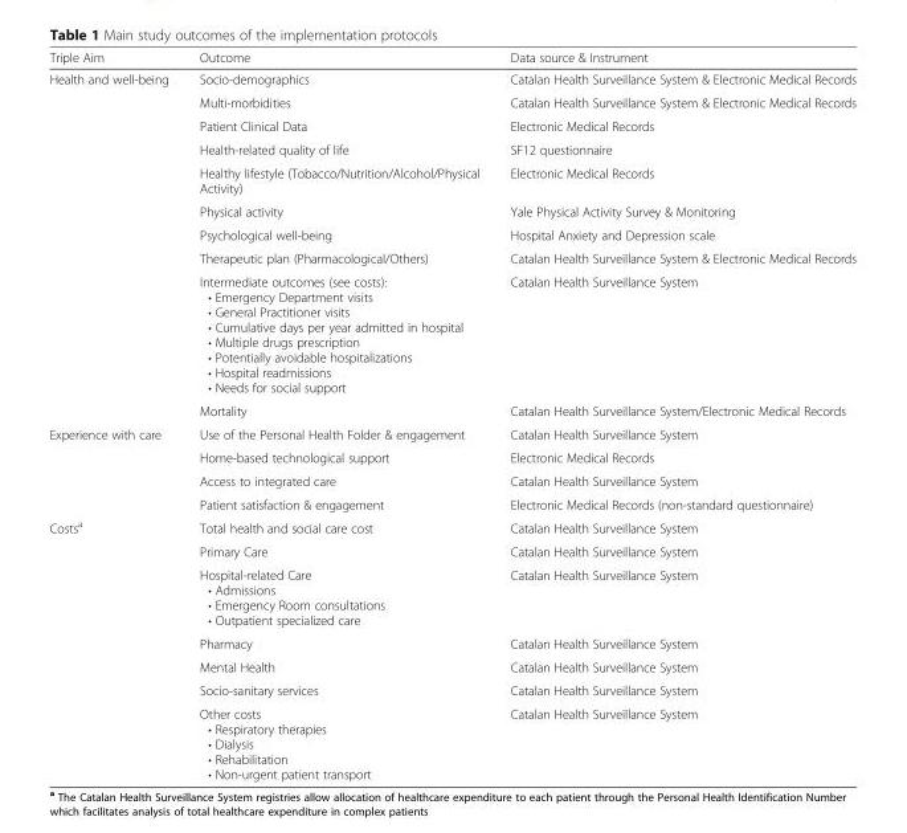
<table><thead><tr><td>Triple Aim</td><td>Outcome</td><td>Data source &amp; Instrument</td></tr></thead><tbody><tr><td rowspan="10">Health and well-being</td><td>Socio-demographics</td><td>Catalan Health Surveillance System &amp; Electronic Medical Records</td></tr><tr><td>Multi-morbidities</td><td>Catalan Health Surveillance System &amp; Electronic Medical Records</td></tr><tr><td>Patient Clinical Data</td><td>Electronic Medical Records</td></tr><tr><td>Health-related quality of life</td><td>SF12 questionnaire</td></tr><tr><td>Healthy lifestyle (Tobacco/Nutrition/Alcohol/Physical Activity)</td><td>Electronic Medical Records</td></tr><tr><td>Physical activity</td><td>Yale Physical Activity Survey &amp; Monitoring</td></tr><tr><td>Psychological well-being</td><td>Hospital Anxiety and Depression scale</td></tr><tr><td>Therapeutic plan (Pharmacological/Others)</td><td>Catalan Health Surveillance System &amp; Electronic Medical Records</td></tr><tr><td>Intermediate outcomes (see costs): • Emergency Department visits • General Practitioner visits • Cumulative days per year admitted in hospital • Multiple drugs prescription • Potentially avoidable hospitalizations • Hospital readmissions • Needs for social support</td><td>Catalan Health Surveillance System</td></tr><tr><td>Mortality</td><td>Catalan Health Surveillance System/Electronic Medical Records</td></tr><tr><td rowspan="4">Experience with care</td><td>Use of the Personal Health Folder &amp; engagement</td><td>Catalan Health Surveillance System</td></tr><tr><td>Home-based technological support</td><td>Electronic Medical Records</td></tr><tr><td>Access to integrated care</td><td>Catalan Health Surveillance System</td></tr><tr><td>Patient satisfaction &amp; engagement</td><td>Electronic Medical Records (non-standard questionnaire)</td></tr><tr><td rowspan="7">Costs<sup>a</sup></td><td>Total health and social care cost</td><td>Catalan Health Surveillance System</td></tr><tr><td>Primary Care</td><td>Catalan Health Surveillance System</td></tr><tr><td>Hospital-related Care • Admissions • Emergency Room consultations • Outpatient specialized care</td><td>Catalan Health Surveillance System</td></tr><tr><td>Pharmacy</td><td>Catalan Health Surveillance System</td></tr><tr><td>Mental Health</td><td>Catalan Health Surveillance System</td></tr><tr><td>Socio-sanitary services</td><td>Catalan Health Surveillance System</td></tr><tr><td>Other costs • Respiratory therapies • Dialysis • Rehabilitation • Non-urgent patient transport</td><td>Catalan Health Surveillance System</td></tr></tbody></table>